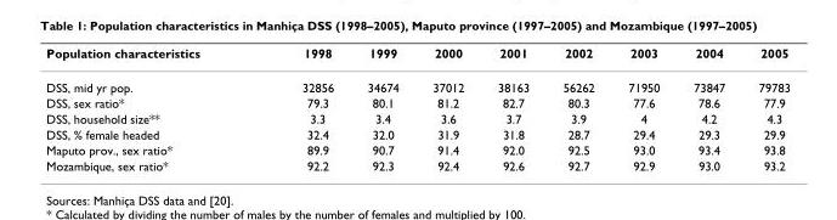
<table><thead><tr><td>Population characteristics</td><td>1998</td><td>1999</td><td>2000</td><td>2001</td><td>2002</td><td>2003</td><td>2004</td><td>2005</td></tr></thead><tbody><tr><td>DSS, mid yr pop.</td><td>32856</td><td>34674</td><td>37012</td><td>38163</td><td>56262</td><td>71950</td><td>73847</td><td>79783</td></tr><tr><td>DSS, sex ratio*</td><td>79.3</td><td>80.1</td><td>81.2</td><td>82.7</td><td>80.3</td><td>77.6</td><td>78.6</td><td>77.9</td></tr><tr><td>DSS, household size**</td><td>3.3</td><td>3.4</td><td>3.6</td><td>3.7</td><td>3.9</td><td>4</td><td>4.2</td><td>4.3</td></tr><tr><td>DSS, % female headed</td><td>32.4</td><td>32.0</td><td>31.9</td><td>31.8</td><td>28.7</td><td>29.4</td><td>29.3</td><td>29.9</td></tr><tr><td>Maputo prov., sex ratio*</td><td>89.9</td><td>90.7</td><td>91.4</td><td>92.0</td><td>92.5</td><td>93.0</td><td>93.4</td><td>93.8</td></tr><tr><td>Mozambique, sex ratio*</td><td>92.2</td><td>92.3</td><td>92.4</td><td>92.6</td><td>92.7</td><td>92.9</td><td>93.0</td><td>93.2</td></tr></tbody></table>